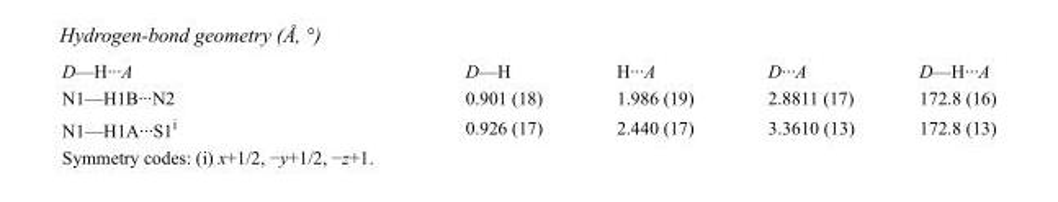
<table><tbody><tr><td>D—H···A</td><td>D—H</td><td>H···A</td><td>D···A</td><td>D—H···A</td></tr><tr><td>N1—H1B···N2</td><td>0.901 (18)</td><td>1.986 (19)</td><td>2.8811 (17)</td><td>172.8 (16)</td></tr><tr><td>N1—H1A···S1<sup>i</sup></td><td>0.926 (17)</td><td>2.440 (17)</td><td>3.3610 (13)</td><td>172.8 (13)</td></tr></tbody></table>